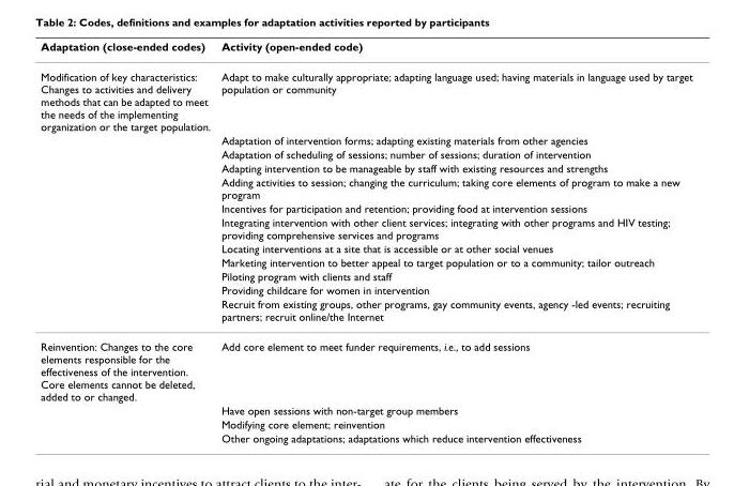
<table><thead><tr><td>Adaptation (close-ended codes)</td><td>Activity (open-ended code)</td></tr></thead><tbody><tr><td rowspan="12">Modification of key characteristics: Changes to activities and delivery methods that can be adapted to meet the needs of the implementing organization or the target population.</td><td>Adapt to make culturally appropriate; adapting language used; having materials in language used by target population or community</td></tr><tr><td>Adaptation of intervention forms; adapting existing materials from other agencies</td></tr><tr><td>Adaptation of scheduling of sessions; number of sessions; duration of intervention</td></tr><tr><td>Adapting intervention to be manageable by staff with existing resources and strengths</td></tr><tr><td>Adding activities to session; changing the curriculum; taking core elements of program to make a new program</td></tr><tr><td>Incentives for participation and retention; providing food at intervention sessions</td></tr><tr><td>Integrating intervention with other client services; integrating with other programs and HIV testing; providing comprehensive services and programs</td></tr><tr><td>Locating interventions at a site that is accessible or at other social venues</td></tr><tr><td>Marketing intervention to better appeal to target population or to a community; tailor outreach</td></tr><tr><td>Piloting program with clients and staff</td></tr><tr><td>Providing childcare for women in intervention</td></tr><tr><td>Recruit from existing groups, other programs, gay community events, agency -led events; recruiting partners; recruit online/the Internet</td></tr><tr><td rowspan="4">Reinvention: Changes to the core elements responsible for the effectiveness of the intervention. Core elements cannot be deleted, added to or changed.</td><td>Add core element to meet funder requirements, i.e., to add sessions</td></tr><tr><td>Have open sessions with non-target group members</td></tr><tr><td>Modifying core element; reinvention</td></tr><tr><td>Other ongoing adaptations; adaptations which reduce intervention effectiveness</td></tr></tbody></table>